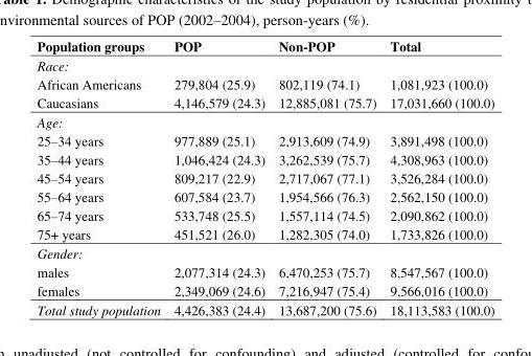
<table><thead><tr><td>Population groups</td><td>POP</td><td>Non-POP</td><td>Total</td></tr></thead><tbody><tr><td colspan="4">Race:</td></tr><tr><td>African Americans</td><td>279,804 (25.9)</td><td>802,119 (74.1)</td><td>1,081,923 (100.0)</td></tr><tr><td>Caucasians</td><td>4,146,579 (24.3)</td><td>12,885,081 (75.7)</td><td>17,031,660 (100.0)</td></tr><tr><td colspan="4">Age:</td></tr><tr><td>25–34 years</td><td>977,889 (25.1)</td><td>2,913,609 (74.9)</td><td>3,891,498 (100.0)</td></tr><tr><td>35–44 years</td><td>1,046,424 (24.3)</td><td>3,262,539 (75.7)</td><td>4,308,963 (100.0)</td></tr><tr><td>45–54 years</td><td>809,217 (22.9)</td><td>2,717,067 (77.1)</td><td>3,526,284 (100.0)</td></tr><tr><td>55–64 years</td><td>607,584 (23.7)</td><td>1,954,566 (76.3)</td><td>2,562,150 (100.0)</td></tr><tr><td>65–74 years</td><td>533,748 (25.5)</td><td>1,557,114 (74.5)</td><td>2,090,862 (100.0)</td></tr><tr><td>75+ years</td><td>451,521 (26.0)</td><td>1,282,305 (74.0)</td><td>1,733,826 (100.0)</td></tr><tr><td colspan="4">Gender:</td></tr><tr><td>males</td><td>2,077,314 (24.3)</td><td>6,470,253 (75.7)</td><td>8,547,567 (100.0)</td></tr><tr><td>females</td><td>2,349,069 (24.6)</td><td>7,216,947 (75.4)</td><td>9,566,016 (100.0)</td></tr><tr><td>Total study population</td><td>4,426,383 (24.4)</td><td>13,687,200 (75.6)</td><td>18,113,583 (100.0)</td></tr></tbody></table>